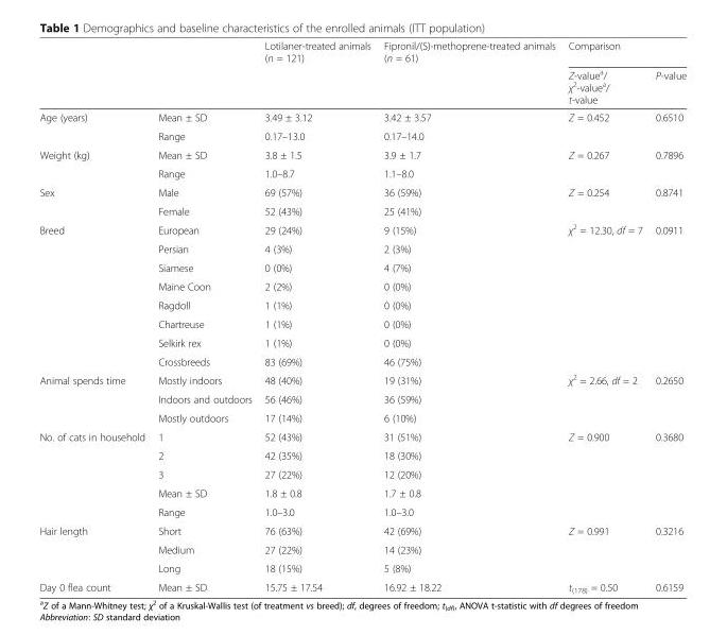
<table><thead><tr><td rowspan="2"></td><td rowspan="2"></td><td rowspan="2">Lotilaner-treated animals (n = 121)</td><td rowspan="2">Fipronil/(S)-methoprene-treated animals (n = 61)</td><td colspan="2">Comparison</td></tr><tr><td>Z-value<sup>a</sup>/ χ<sup>2</sup>-value<sup>a</sup>/ t-value</td><td>P-value</td></tr></thead><tbody><tr><td rowspan="2">Age (years)</td><td>Mean ± SD</td><td>3.49 ± 3.12</td><td>3.42 ± 3.57</td><td>Z = 0.452</td><td>0.6510</td></tr><tr><td>Range</td><td>0.17–13.0</td><td>0.17–14.0</td><td></td><td></td></tr><tr><td rowspan="2">Weight (kg)</td><td>Mean ± SD</td><td>3.8 ± 1.5</td><td>3.9 ± 1.7</td><td>Z = 0.267</td><td>0.7896</td></tr><tr><td>Range</td><td>1.0–8.7</td><td>1.1–8.0</td><td></td><td></td></tr><tr><td rowspan="2">Sex</td><td>Male</td><td>69 (57%)</td><td>36 (59%)</td><td rowspan="2">Z = 0.254</td><td rowspan="2">0.8741</td></tr><tr><td>Female</td><td>52 (43%)</td><td>25 (41%)</td></tr><tr><td rowspan="8">Breed</td><td>European</td><td>29 (24%)</td><td>9 (15%)</td><td rowspan="8">χ<sup>2</sup> = 12.30, df = 7</td><td rowspan="8">0.0911</td></tr><tr><td>Persian</td><td>4 (3%)</td><td>2 (3%)</td></tr><tr><td>Siamese</td><td>0 (0%)</td><td>4 (7%)</td></tr><tr><td>Maine Coon</td><td>2 (2%)</td><td>0 (0%)</td></tr><tr><td>Ragdoll</td><td>1 (1%)</td><td>0 (0%)</td></tr><tr><td>Chartreuse</td><td>1 (1%)</td><td>0 (0%)</td></tr><tr><td>Selkirk rex</td><td>1 (1%)</td><td>0 (0%)</td></tr><tr><td>Crossbreeds</td><td>83 (69%)</td><td>46 (75%)</td></tr><tr><td rowspan="3">Animal spends time</td><td>Mostly indoors</td><td>48 (40%)</td><td>19 (31%)</td><td rowspan="3">χ<sup>2</sup> = 2.66, df = 2</td><td rowspan="3">0.2650</td></tr><tr><td>Indoors and outdoors</td><td>56 (46%)</td><td>36 (59%)</td></tr><tr><td>Mostly outdoors</td><td>17 (14%)</td><td>6 (10%)</td></tr><tr><td rowspan="5">No. of cats in household</td><td>1</td><td>52 (43%)</td><td>31 (51%)</td><td rowspan="5">Z = 0.900</td><td rowspan="5">0.3680</td></tr><tr><td>2</td><td>42 (35%)</td><td>18 (30%)</td></tr><tr><td>3</td><td>27 (22%)</td><td>12 (20%)</td></tr><tr><td>Mean ± SD</td><td>1.8 ± 0.8</td><td>1.7 ± 0.8</td></tr><tr><td>Range</td><td>1.0–3.0</td><td>1.0–3.0</td></tr><tr><td rowspan="3">Hair length</td><td>Short</td><td>76 (63%)</td><td>42 (69%)</td><td rowspan="3">Z = 0.991</td><td rowspan="3">0.3216</td></tr><tr><td>Medium</td><td>27 (22%)</td><td>14 (23%)</td></tr><tr><td>Long</td><td>18 (15%)</td><td>5 (8%)</td></tr><tr><td>Day 0 flea count</td><td>Mean ± SD</td><td>15.75 ± 17.54</td><td>16.92 ± 18.22</td><td>t<sub>(178)</sub> = 0.50</td><td>0.6159</td></tr></tbody></table>